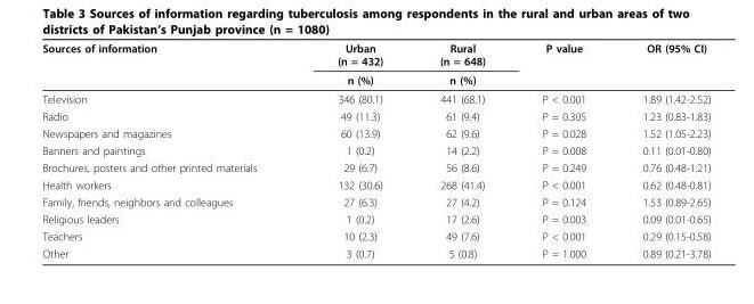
<table><thead><tr><td rowspan="2">Sources of information</td><td rowspan="2">Urban (n = 432) n (%)</td><td rowspan="2">Rural (n = 648) n (%)</td><td rowspan="2">P value</td><td rowspan="2">OR (95% CI)</td></tr><tr></tr></thead><tbody><tr><td>Television</td><td>346 (80.1)</td><td>441 (68.1)</td><td>P &lt; 0.001</td><td>1.89 (1.42-2.52)</td></tr><tr><td>Radio</td><td>49 (11.3)</td><td>61 (9.4)</td><td>P = 0.305</td><td>1.23 (0.83-1.83)</td></tr><tr><td>Newspapers and magazines</td><td>60 (13.9)</td><td>62 (9.6)</td><td>P = 0.028</td><td>1.52 (1.05-2.23)</td></tr><tr><td>Banners and paintings</td><td>1 (0.2)</td><td>14 (2.2)</td><td>P = 0.008</td><td>0.11 (0.01-0.80)</td></tr><tr><td>Brochures, posters and other printed materials</td><td>29 (6.7)</td><td>56 (8.6)</td><td>P = 0.249</td><td>0.76 (0.48-1.21)</td></tr><tr><td>Health workers</td><td>132 (30.6)</td><td>268 (41.4)</td><td>P &lt; 0.001</td><td>0.62 (0.48-0.81)</td></tr><tr><td>Family, friends, neighbors and colleagues</td><td>27 (6.3)</td><td>27 (4.2)</td><td>P = 0.124</td><td>1.53 (0.89-2.65)</td></tr><tr><td>Religious leaders</td><td>1 (0.2)</td><td>17 (2.6)</td><td>P = 0.003</td><td>0.09 (0.01-0.65)</td></tr><tr><td>Teachers</td><td>10 (2.3)</td><td>49 (7.6)</td><td>P &lt; 0.001</td><td>0.29 (0.15-0.58)</td></tr><tr><td>Other</td><td>3 (0.7)</td><td>5 (0.8)</td><td>P = 1.000</td><td>0.89 (0.21-3.78)</td></tr></tbody></table>